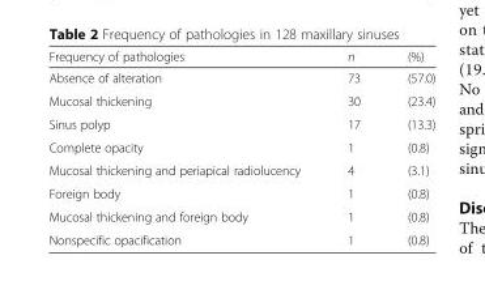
<table><thead><tr><td>Frequency of pathologies</td><td>n</td><td>(%)</td></tr></thead><tbody><tr><td>Absence of alteration</td><td>73</td><td>(57.0)</td></tr><tr><td>Mucosal thickening</td><td>30</td><td>(23.4)</td></tr><tr><td>Sinus polyp</td><td>17</td><td>(13.3)</td></tr><tr><td>Complete opacity</td><td>1</td><td>(0.8)</td></tr><tr><td>Mucosal thickening and periapical radiolucency</td><td>4</td><td>(3.1)</td></tr><tr><td>Foreign body</td><td>1</td><td>(0.8)</td></tr><tr><td>Mucosal thickening and foreign body</td><td>1</td><td>(0.8)</td></tr><tr><td>Nonspecific opacification</td><td>1</td><td>(0.8)</td></tr></tbody></table>